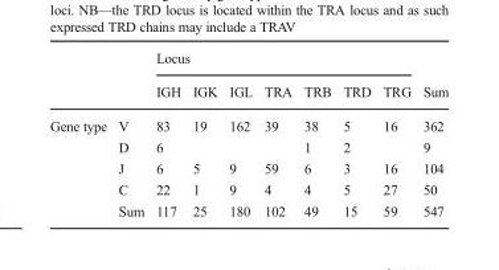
<table><thead><tr><td rowspan="2"></td><td rowspan="2"></td><td colspan="7">Locus</td><td rowspan="2">Sum</td></tr><tr><td>IGH</td><td>IGK</td><td>IGL</td><td>TRA</td><td>TRB</td><td>TRD</td><td>TRG</td></tr></thead><tbody><tr><td rowspan="5">Gene type</td><td>V</td><td>83</td><td>19</td><td>162</td><td>39</td><td>38</td><td>5</td><td>16</td><td>362</td></tr><tr><td>D</td><td>6</td><td></td><td></td><td></td><td>1</td><td>2</td><td></td><td>9</td></tr><tr><td>J</td><td>6</td><td>5</td><td>9</td><td>59</td><td>6</td><td>3</td><td>16</td><td>104</td></tr><tr><td>C</td><td>22</td><td>1</td><td>9</td><td>4</td><td>4</td><td>5</td><td>27</td><td>50</td></tr><tr><td>Sum</td><td>117</td><td>25</td><td>180</td><td>102</td><td>49</td><td>15</td><td>59</td><td>547</td></tr></tbody></table>